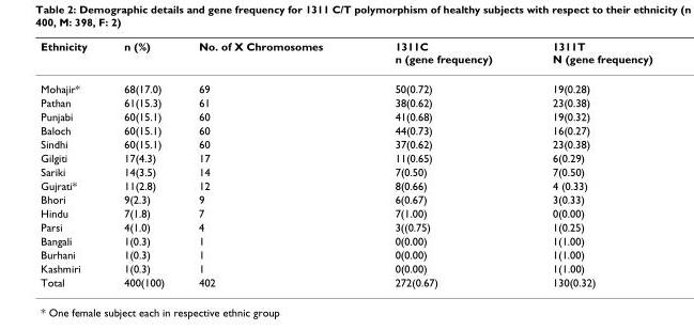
<table><thead><tr><td>Ethnicity</td><td>n (%)</td><td>No. of X Chromosomes</td><td>1311C n (gene frequency)</td><td>1311T N (gene frequency)</td></tr></thead><tbody><tr><td>Mohajir*</td><td>68(17.0)</td><td>69</td><td>50(0.72)</td><td>19(0.28)</td></tr><tr><td>Pathan</td><td>61(15.3)</td><td>61</td><td>38(0.62)</td><td>23(0.38)</td></tr><tr><td>Punjabi</td><td>60(15.1)</td><td>60</td><td>41(0.68)</td><td>19(0.32)</td></tr><tr><td>Baloch</td><td>60(15.1)</td><td>60</td><td>44(0.73)</td><td>16(0.27)</td></tr><tr><td>Sindhi</td><td>60(15.1)</td><td>60</td><td>37(0.62)</td><td>23(0.38)</td></tr><tr><td>Gilgiti</td><td>17(4.3)</td><td>17</td><td>11(0.65)</td><td>6(0.29)</td></tr><tr><td>Sariki</td><td>14(3.5)</td><td>14</td><td>7(0.50)</td><td>7(0.50)</td></tr><tr><td>Gujrati*</td><td>11(2.8)</td><td>12</td><td>8(0.66)</td><td>4 (0.33)</td></tr><tr><td>Bhori</td><td>9(2.3)</td><td>9</td><td>6(0.67)</td><td>3(0.33)</td></tr><tr><td>Hindu</td><td>7(1.8)</td><td>7</td><td>7(1.00)</td><td>0(0.00)</td></tr><tr><td>Parsi</td><td>4(1.0)</td><td>4</td><td>3((0.75)</td><td>1(0.25)</td></tr><tr><td>Bangali</td><td>1(0.3)</td><td>1</td><td>0(0.00)</td><td>1(1.00)</td></tr><tr><td>Burhani</td><td>1(0.3)</td><td>1</td><td>0(0.00)</td><td>1(1.00)</td></tr><tr><td>Kashmiri</td><td>1(0.3)</td><td>1</td><td>0(0.00)</td><td>1(1.00)</td></tr><tr><td>Total</td><td>400(100)</td><td>402</td><td>272(0.67)</td><td>130(0.32)</td></tr></tbody></table>